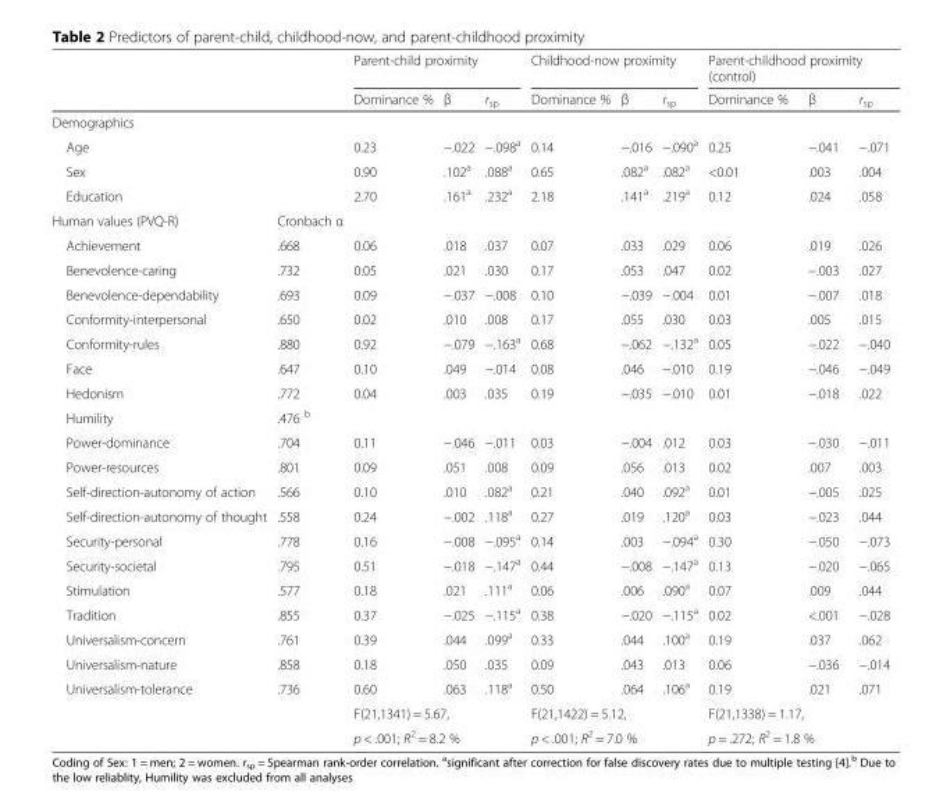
<table><thead><tr><td rowspan="2"></td><td rowspan="2"></td><td colspan="3">Parent-child proximity</td><td colspan="3">Childhood-now proximity</td><td colspan="3">Parent-childhood proximity (control)</td></tr><tr><td>Dominance %</td><td>β</td><td>r<sub>sp</sub></td><td>Dominance %</td><td>β</td><td>r<sub>sp</sub></td><td>Dominance %</td><td>β</td><td>r<sub>sp</sub></td></tr></thead><tbody><tr><td colspan="11">Demographics</td></tr><tr><td>Age</td><td></td><td>0.23</td><td>−.022</td><td>−.098<sup>a</sup></td><td>0.14</td><td>−.016</td><td>−.090<sup>a</sup></td><td>0.25</td><td>−.041</td><td>−.071</td></tr><tr><td>Sex</td><td></td><td>0.90</td><td>.102<sup>a</sup></td><td>.088<sup>a</sup></td><td>0.65</td><td>.082<sup>a</sup></td><td>.082<sup>a</sup></td><td>&lt;0.01</td><td>.003</td><td>.004</td></tr><tr><td>Education</td><td></td><td>2.70</td><td>.161<sup>a</sup></td><td>.232<sup>a</sup></td><td>2.18</td><td>.141<sup>a</sup></td><td>.219<sup>a</sup></td><td>0.12</td><td>.024</td><td>.058</td></tr><tr><td>Human values (PVQ-R)</td><td>Cronbach α</td><td></td><td></td><td></td><td></td><td></td><td></td><td></td><td></td><td></td></tr><tr><td>Achievement</td><td>.668</td><td>0.06</td><td>.018</td><td>.037</td><td>0.07</td><td>.033</td><td>.029</td><td>0.06</td><td>.019</td><td>.026</td></tr><tr><td>Benevolence-caring</td><td>.732</td><td>0.05</td><td>.021</td><td>.030</td><td>0.17</td><td>.053</td><td>.047</td><td>0.02</td><td>−.003</td><td>.027</td></tr><tr><td>Benevolence-dependability</td><td>.693</td><td>0.09</td><td>−.037</td><td>−.008</td><td>0.10</td><td>−.039</td><td>−.004</td><td>0.01</td><td>−.007</td><td>.018</td></tr><tr><td>Conformity-interpersonal</td><td>.650</td><td>0.02</td><td>.010</td><td>.008</td><td>0.17</td><td>.055</td><td>.030</td><td>0.03</td><td>.005</td><td>.015</td></tr><tr><td>Conformity-rules</td><td>.880</td><td>0.92</td><td>−.079</td><td>−.163<sup>a</sup></td><td>0.68</td><td>−.062</td><td>−.132<sup>a</sup></td><td>0.05</td><td>−.022</td><td>−.040</td></tr><tr><td>Face</td><td>.647</td><td>0.10</td><td>.049</td><td>−.014</td><td>0.08</td><td>.046</td><td>−.010</td><td>0.19</td><td>−.046</td><td>−.049</td></tr><tr><td>Hedonism</td><td>.772</td><td>0.04</td><td>.003</td><td>.035</td><td>0.19</td><td>−.035</td><td>−.010</td><td>0.01</td><td>−.018</td><td>.022</td></tr><tr><td>Humility</td><td>.476 <sup>b</sup></td><td></td><td></td><td></td><td></td><td></td><td></td><td></td><td></td><td></td></tr><tr><td>Power-dominance</td><td>.704</td><td>0.11</td><td>−.046</td><td>−.011</td><td>0.03</td><td>−.004</td><td>.012</td><td>0.03</td><td>−.030</td><td>−.011</td></tr><tr><td>Power-resources</td><td>.801</td><td>0.09</td><td>.051</td><td>.008</td><td>0.09</td><td>.056</td><td>.013</td><td>0.02</td><td>.007</td><td>.003</td></tr><tr><td>Self-direction-autonomy of action</td><td>.566</td><td>0.10</td><td>.010</td><td>.082<sup>a</sup></td><td>0.21</td><td>.040</td><td>.092<sup>a</sup></td><td>0.01</td><td>−.005</td><td>.025</td></tr><tr><td>Self-direction-autonomy of thought</td><td>.558</td><td>0.24</td><td>−.002</td><td>.118<sup>a</sup></td><td>0.27</td><td>.019</td><td>.120<sup>a</sup></td><td>0.03</td><td>−.023</td><td>.044</td></tr><tr><td>Security-personal</td><td>.778</td><td>0.16</td><td>−.008</td><td>−.095<sup>a</sup></td><td>0.14</td><td>.003</td><td>−.094<sup>a</sup></td><td>0.30</td><td>−.050</td><td>−.073</td></tr><tr><td>Security-societal</td><td>.795</td><td>0.51</td><td>−.018</td><td>−.147<sup>a</sup></td><td>0.44</td><td>−.008</td><td>−.147<sup>a</sup></td><td>0.13</td><td>−.020</td><td>−.065</td></tr><tr><td>Stimulation</td><td>.577</td><td>0.18</td><td>.021</td><td>.111<sup>a</sup></td><td>0.06</td><td>.006</td><td>.090<sup>a</sup></td><td>0.07</td><td>.009</td><td>.044</td></tr><tr><td>Tradition</td><td>.855</td><td>0.37</td><td>−.025</td><td>−.115<sup>a</sup></td><td>0.38</td><td>−.020</td><td>−.115<sup>a</sup></td><td>0.02</td><td>&lt;.001</td><td>−.028</td></tr><tr><td>Universalism-concern</td><td>.761</td><td>0.39</td><td>.044</td><td>.099<sup>a</sup></td><td>0.33</td><td>.044</td><td>.100<sup>a</sup></td><td>0.19</td><td>.037</td><td>.062</td></tr><tr><td>Universalism-nature</td><td>.858</td><td>0.18</td><td>.050</td><td>.035</td><td>0.09</td><td>.043</td><td>.013</td><td>0.06</td><td>−.036</td><td>−.014</td></tr><tr><td rowspan="3">Universalism-tolerance</td><td>.736</td><td>0.60</td><td>.063</td><td>.118<sup>a</sup></td><td>0.50</td><td>.064</td><td>.106<sup>a</sup></td><td>0.19</td><td>.021</td><td>.071</td></tr><tr><td rowspan="2"></td><td colspan="2">F(21,1341) = 5.67,</td><td rowspan="2"></td><td colspan="2">F(21,1422) = 5.12,</td><td rowspan="2"></td><td colspan="2">F(21,1338) = 1.17,</td><td rowspan="2"></td></tr><tr><td colspan="2">p &lt; .001; R<sup>2</sup> = 8.2 %</td><td colspan="2">p &lt; .001; R<sup>2</sup> = 7.0 %</td><td colspan="2">p = .272; R<sup>2</sup> = 1.8 %</td></tr></tbody></table>